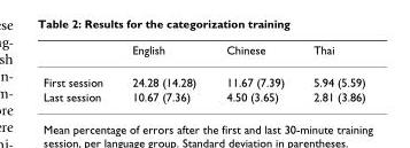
<table><thead><tr><td></td><td>English</td><td>Chinese</td><td>Thai</td></tr></thead><tbody><tr><td>First session</td><td>24.28 (14.28)</td><td>11.67 (7.39)</td><td>5.94 (5.59)</td></tr><tr><td>Last session</td><td>10.67 (7.36)</td><td>4.50 (3.65)</td><td>2.81 (3.86)</td></tr></tbody></table>